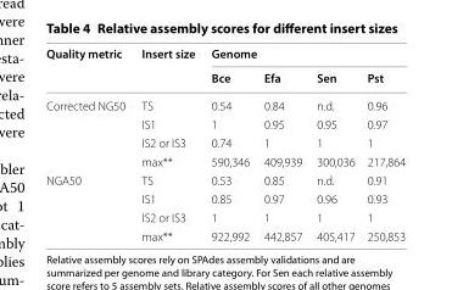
<table><thead><tr><td rowspan="2">Quality metric</td><td rowspan="2">Insert size</td><td colspan="4">Genome</td></tr><tr><td>Bce</td><td>Efa</td><td>Sen</td><td>Pst</td></tr></thead><tbody><tr><td rowspan="4">Corrected NG50</td><td>TS</td><td>0.54</td><td>0.84</td><td>n.d.</td><td>0.96</td></tr><tr><td>IS1</td><td>1</td><td>0.95</td><td>0.95</td><td>0.97</td></tr><tr><td>IS2 or IS3</td><td>0.74</td><td>1</td><td>1</td><td>1</td></tr><tr><td>max**</td><td>590,346</td><td>409,939</td><td>300,036</td><td>217,864</td></tr><tr><td rowspan="4">NGA50</td><td>TS</td><td>0.53</td><td>0.85</td><td>n.d.</td><td>0.91</td></tr><tr><td>IS1</td><td>0.85</td><td>0.97</td><td>0.96</td><td>0.93</td></tr><tr><td>IS2 or IS3</td><td>1</td><td>1</td><td>1</td><td>1</td></tr><tr><td>max**</td><td>922,992</td><td>442,857</td><td>405,417</td><td>250,853</td></tr></tbody></table>